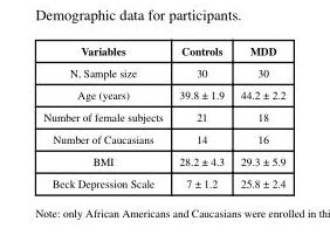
<table><thead><tr><td>Variables</td><td>Controls</td><td>MDD</td></tr></thead><tbody><tr><td>N, Sample size</td><td>30</td><td>30</td></tr><tr><td>Age (years)</td><td>39.8 ± 1.9</td><td>44.2 ± 2.2</td></tr><tr><td>Number of female subjects</td><td>21</td><td>18</td></tr><tr><td>Number of Caucasians</td><td>14</td><td>16</td></tr><tr><td>BMI</td><td>28.2 ± 4.3</td><td>29.3 ± 5.9</td></tr><tr><td>Beck Depression Scale</td><td>7 ± 1.2</td><td>25.8 ± 2.4</td></tr></tbody></table>